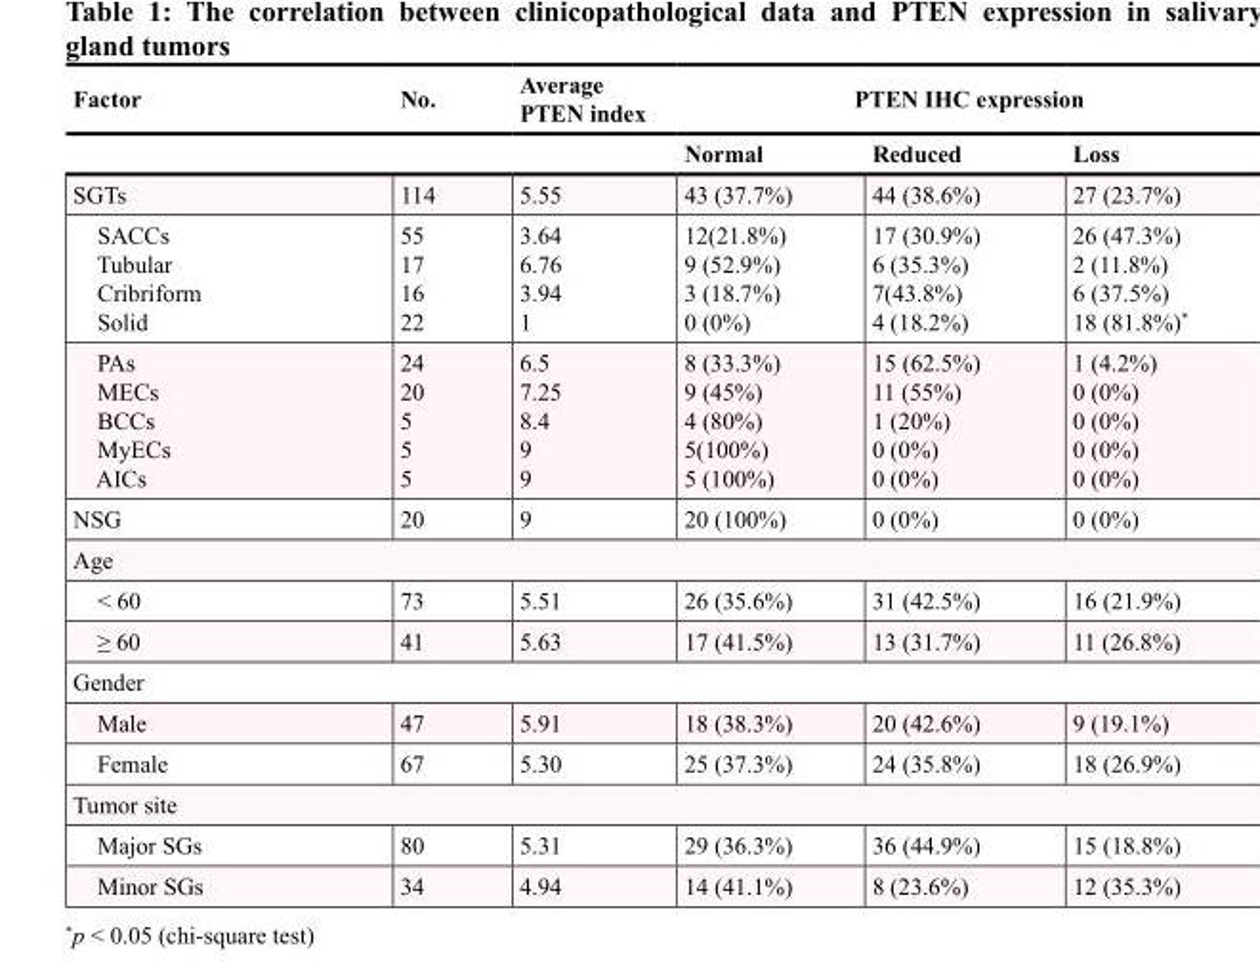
<table><thead><tr><td rowspan="2">Factor</td><td rowspan="2">No.</td><td rowspan="2">Average PTEN index</td><td colspan="3">PTEN IHC expression</td></tr><tr><td>Normal</td><td>Reduced</td><td>Loss</td></tr></thead><tbody><tr><td>SGTs</td><td>114</td><td>5.55</td><td>43 (37.7%)</td><td>44 (38.6%)</td><td>27 (23.7%)</td></tr><tr><td>SACCs Tubular Cribriform Solid</td><td>55 17 16 22</td><td>3.64 6.76 3.94 1</td><td>12(21.8%) 9 (52.9%) 3 (18.7%) 0 (0%)</td><td>17 (30.9%) 6 (35.3%) 7(43.8%) 4 (18.2%)</td><td>26 (47.3%) 2 (11.8%) 6 (37.5%) 18 (81.8%)*</td></tr><tr><td>PAs MECs BCCs MyECs AICs</td><td>24 20 5 5 5</td><td>6.5 7.25 8.4 9 9</td><td>8 (33.3%) 9 (45%) 4 (80%) 5(100%) 5 (100%)</td><td>15 (62.5%) 11 (55%) 1 (20%) 0 (0%) 0 (0%)</td><td>1 (4.2%) 0 (0%) 0 (0%) 0 (0%) 0 (0%)</td></tr><tr><td>NSG</td><td>20</td><td>9</td><td>20 (100%)</td><td>0 (0%)</td><td>0 (0%)</td></tr><tr><td colspan="6">Age</td></tr><tr><td>&lt; 60</td><td>73</td><td>5.51</td><td>26 (35.6%)</td><td>31 (42.5%)</td><td>16 (21.9%)</td></tr><tr><td>≥ 60</td><td>41</td><td>5.63</td><td>17 (41.5%)</td><td>13 (31.7%)</td><td>11 (26.8%)</td></tr><tr><td colspan="6">Gender</td></tr><tr><td>Male</td><td>47</td><td>5.91</td><td>18 (38.3%)</td><td>20 (42.6%)</td><td>9 (19.1%)</td></tr><tr><td>Female</td><td>67</td><td>5.30</td><td>25 (37.3%)</td><td>24 (35.8%)</td><td>18 (26.9%)</td></tr><tr><td colspan="6">Tumor site</td></tr><tr><td>Major SGs</td><td>80</td><td>5.31</td><td>29 (36.3%)</td><td>36 (44.9%)</td><td>15 (18.8%)</td></tr><tr><td>Minor SGs</td><td>34</td><td>4.94</td><td>14 (41.1%)</td><td>8 (23.6%)</td><td>12 (35.3%)</td></tr></tbody></table>